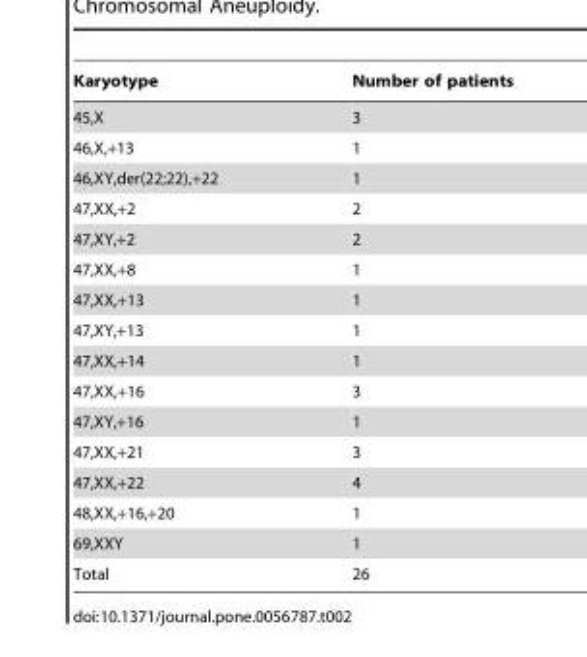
<table><thead><tr><td>Karyotype</td><td>Number of patients</td></tr></thead><tbody><tr><td>45,X</td><td>3</td></tr><tr><td>46,X,+13</td><td>1</td></tr><tr><td>46,XY,der(22;22),+22</td><td>1</td></tr><tr><td>47,XX,+2</td><td>2</td></tr><tr><td>47,XY,+2</td><td>2</td></tr><tr><td>47,XX,+8</td><td>1</td></tr><tr><td>47,XX,+13</td><td>1</td></tr><tr><td>47,XY,+13</td><td>1</td></tr><tr><td>47,XX,+14</td><td>1</td></tr><tr><td>47,XX,+16</td><td>3</td></tr><tr><td>47,XY,+16</td><td>1</td></tr><tr><td>47,XX,+21</td><td>3</td></tr><tr><td>47,XX,+22</td><td>4</td></tr><tr><td>48,XX,+16,+20</td><td>1</td></tr><tr><td>69,XXY</td><td>1</td></tr><tr><td>Total</td><td>26</td></tr></tbody></table>